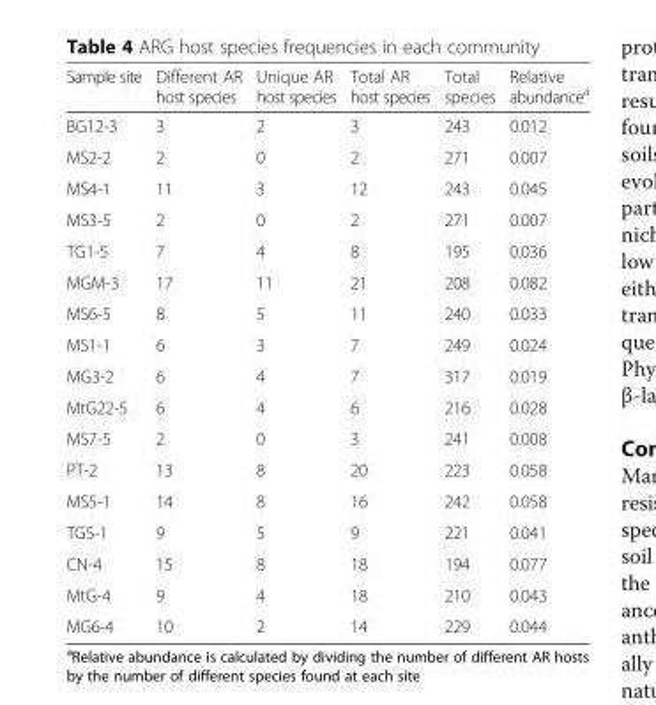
<table><thead><tr><td>Sample site</td><td>Different AR host species</td><td>Unique AR host species</td><td>Total AR host species</td><td>Total species</td><td>Relative abundance<sup>a</sup></td></tr></thead><tbody><tr><td>BG12-3</td><td>3</td><td>2</td><td>3</td><td>243</td><td>0.012</td></tr><tr><td>MS2-2</td><td>2</td><td>0</td><td>2</td><td>271</td><td>0.007</td></tr><tr><td>MS4-1</td><td>11</td><td>3</td><td>12</td><td>243</td><td>0.045</td></tr><tr><td>MS3-5</td><td>2</td><td>0</td><td>2</td><td>271</td><td>0.007</td></tr><tr><td>TG1-5</td><td>7</td><td>4</td><td>8</td><td>195</td><td>0.036</td></tr><tr><td>MGM-3</td><td>17</td><td>11</td><td>21</td><td>208</td><td>0.082</td></tr><tr><td>MS6-5</td><td>8</td><td>5</td><td>11</td><td>240</td><td>0.033</td></tr><tr><td>MS1-1</td><td>6</td><td>3</td><td>7</td><td>249</td><td>0.024</td></tr><tr><td>MG3-2</td><td>6</td><td>4</td><td>7</td><td>317</td><td>0.019</td></tr><tr><td>MtG22-5</td><td>6</td><td>4</td><td>6</td><td>216</td><td>0.028</td></tr><tr><td>MS7-5</td><td>2</td><td>0</td><td>3</td><td>241</td><td>0.008</td></tr><tr><td>PT-2</td><td>13</td><td>8</td><td>20</td><td>223</td><td>0.058</td></tr><tr><td>MS5-1</td><td>14</td><td>8</td><td>16</td><td>242</td><td>0.058</td></tr><tr><td>TG5-1</td><td>9</td><td>5</td><td>9</td><td>221</td><td>0.041</td></tr><tr><td>CN-4</td><td>15</td><td>8</td><td>18</td><td>194</td><td>0.077</td></tr><tr><td>MtG-4</td><td>9</td><td>4</td><td>18</td><td>210</td><td>0.043</td></tr><tr><td>MG6-4</td><td>10</td><td>2</td><td>14</td><td>229</td><td>0.044</td></tr></tbody></table>